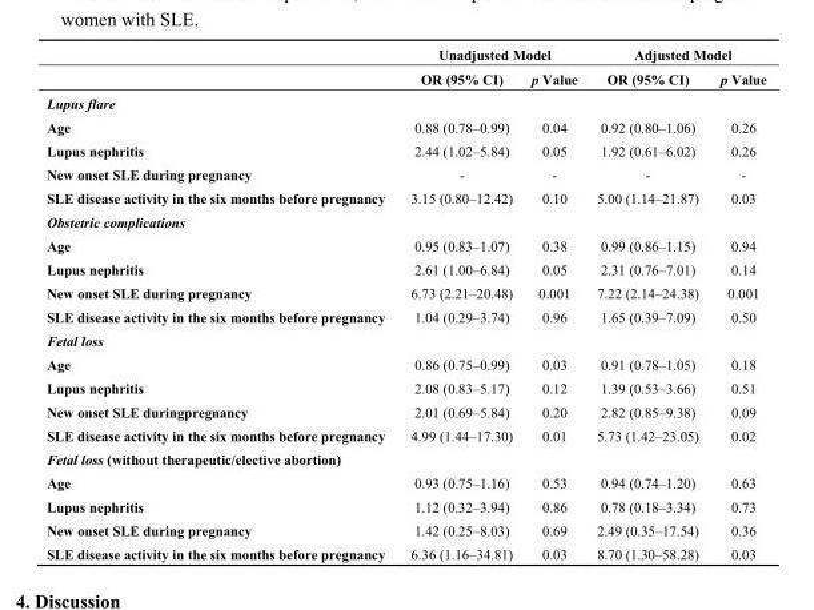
<table><thead><tr><td rowspan="2"></td><td colspan="2">Unadjusted Model</td><td colspan="2">Adjusted Model</td></tr><tr><td>OR (95% CI)</td><td>p Value</td><td>OR (95% CI)</td><td>p Value</td></tr></thead><tbody><tr><td colspan="5">Lupus flare</td></tr><tr><td>Age</td><td>0.88 (0.78–0.99)</td><td>0.04</td><td>0.92 (0.80–1.06)</td><td>0.26</td></tr><tr><td>Lupus nephritis</td><td>2.44 (1.02–5.84)</td><td>0.05</td><td>1.92 (0.61–6.02)</td><td>0.26</td></tr><tr><td>New onset SLE during pregnancy</td><td>-</td><td>-</td><td>-</td><td>-</td></tr><tr><td>SLE disease activity in the six months before pregnancy</td><td>3.15 (0.80–12.42)</td><td>0.10</td><td>5.00 (1.14–21.87)</td><td>0.03</td></tr><tr><td colspan="5">Obstetric complications</td></tr><tr><td>Age</td><td>0.95 (0.83–1.07)</td><td>0.38</td><td>0.99 (0.86–1.15)</td><td>0.94</td></tr><tr><td>Lupus nephritis</td><td>2.61 (1.00–6.84)</td><td>0.05</td><td>2.31 (0.76–7.01)</td><td>0.14</td></tr><tr><td>New onset SLE during pregnancy</td><td>6.73 (2.21–20.48)</td><td>0.001</td><td>7.22 (2.14–24.38)</td><td>0.001</td></tr><tr><td>SLE disease activity in the six months before pregnancy</td><td>1.04 (0.29–3.74)</td><td>0.96</td><td>1.65 (0.39–7.09)</td><td>0.50</td></tr><tr><td colspan="5">Fetal loss</td></tr><tr><td>Age</td><td>0.86 (0.75–0.99)</td><td>0.03</td><td>0.91 (0.78–1.05)</td><td>0.18</td></tr><tr><td>Lupus nephritis</td><td>2.08 (0.83–5.17)</td><td>0.12</td><td>1.39 (0.53–3.66)</td><td>0.51</td></tr><tr><td>New onset SLE duringpregnancy</td><td>2.01 (0.69–5.84)</td><td>0.20</td><td>2.82 (0.85–9.38)</td><td>0.09</td></tr><tr><td>SLE disease activity in the six months before pregnancy</td><td>4.99 (1.44–17.30)</td><td>0.01</td><td>5.73 (1.42–23.05)</td><td>0.02</td></tr><tr><td colspan="5">Fetal loss (without therapeutic/elective abortion)</td></tr><tr><td>Age</td><td>0.93 (0.75–1.16)</td><td>0.53</td><td>0.94 (0.74–1.20)</td><td>0.63</td></tr><tr><td>Lupus nephritis</td><td>1.12 (0.32–3.94)</td><td>0.86</td><td>0.78 (0.18–3.34)</td><td>0.73</td></tr><tr><td>New onset SLE during pregnancy</td><td>1.42 (0.25–8.03)</td><td>0.69</td><td>2.49 (0.35–17.54)</td><td>0.36</td></tr><tr><td>SLE disease activity in the six months before pregnancy</td><td>6.36 (1.16–34.81)</td><td>0.03</td><td>8.70 (1.30–58.28)</td><td>0.03</td></tr></tbody></table>